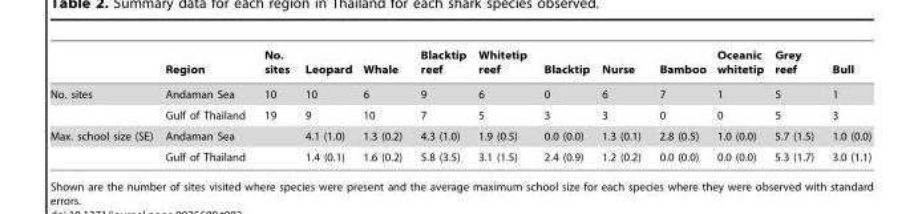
<table><thead><tr><td></td><td>Region</td><td>No. sites</td><td>Leopard</td><td>Whale</td><td>Blacktip reef</td><td>Whitetip reef</td><td>Blacktip</td><td>Nurse</td><td>Bamboo</td><td>Oceanic whitetip</td><td>Grey reef</td><td>Bull</td></tr></thead><tbody><tr><td rowspan="2">No. sites</td><td>Andaman Sea</td><td>10</td><td>10</td><td>6</td><td>9</td><td>6</td><td>0</td><td>6</td><td>7</td><td>1</td><td>5</td><td>1</td></tr><tr><td>Gulf of Thailand</td><td>19</td><td>9</td><td>10</td><td>7</td><td>5</td><td>3</td><td>3</td><td>0</td><td>0</td><td>5</td><td>3</td></tr><tr><td rowspan="2">Max. school size (SE)</td><td>Andaman Sea</td><td></td><td>4.1 (1.0)</td><td>1.3 (0.2)</td><td>4.3 (1.0)</td><td>1.9 (0.5)</td><td>0.0 (0.0)</td><td>1.3 (0.1)</td><td>2.8 (0.5)</td><td>1.0 (0.0)</td><td>5.7 (1.5)</td><td>1.0 (0.0)</td></tr><tr><td>Gulf of Thailand</td><td></td><td>1.4 (0.1)</td><td>1.6 (0.2)</td><td>5.8 (3.5)</td><td>3.1 (1.5)</td><td>2.4 (0.9)</td><td>1.2 (0.2)</td><td>0.0 (0.0)</td><td>0.0 (0.0)</td><td>5.3 (1.7)</td><td>3.0 (1.1)</td></tr></tbody></table>